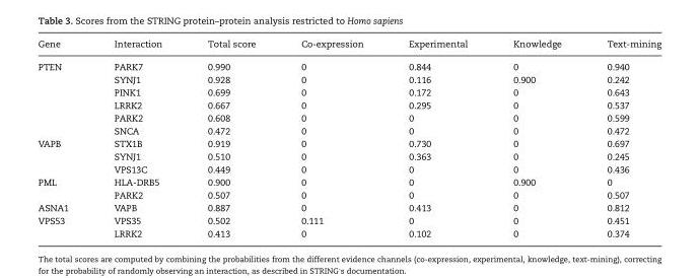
<table><thead><tr><td>Gene</td><td>Interaction</td><td>Total score</td><td>Co-expression</td><td>Experimental</td><td>Knowledge</td><td>Text-mining</td></tr></thead><tbody><tr><td rowspan="6">PTEN</td><td>PARK7</td><td>0.990</td><td>0</td><td>0.844</td><td>0</td><td>0.940</td></tr><tr><td>SYNJ1</td><td>0.928</td><td>0</td><td>0.116</td><td>0.900</td><td>0.242</td></tr><tr><td>PINK1</td><td>0.699</td><td>0</td><td>0.172</td><td>0</td><td>0.643</td></tr><tr><td>LRRK2</td><td>0.667</td><td>0</td><td>0.295</td><td>0</td><td>0.537</td></tr><tr><td>PARK2</td><td>0.608</td><td>0</td><td>0</td><td>0</td><td>0.599</td></tr><tr><td>SNCA</td><td>0.472</td><td>0</td><td>0</td><td>0</td><td>0.472</td></tr><tr><td rowspan="3">VAPB</td><td>STX1B</td><td>0.919</td><td>0</td><td>0.730</td><td>0</td><td>0.697</td></tr><tr><td>SYNJ1</td><td>0.510</td><td>0</td><td>0.363</td><td>0</td><td>0.245</td></tr><tr><td>VPS13C</td><td>0.449</td><td>0</td><td>0</td><td>0</td><td>0.436</td></tr><tr><td rowspan="2">PML</td><td>HLA-DRB5</td><td>0.900</td><td>0</td><td>0</td><td>0.900</td><td>0</td></tr><tr><td>PARK2</td><td>0.507</td><td>0</td><td>0</td><td>0</td><td>0.507</td></tr><tr><td>ASNA1</td><td>VAPB</td><td>0.887</td><td>0</td><td>0.413</td><td>0</td><td>0.812</td></tr><tr><td rowspan="2">VPS53</td><td>VPS35</td><td>0.502</td><td>0.111</td><td>0</td><td>0</td><td>0.451</td></tr><tr><td>LRRK2</td><td>0.413</td><td>0</td><td>0.102</td><td>0</td><td>0.374</td></tr></tbody></table>